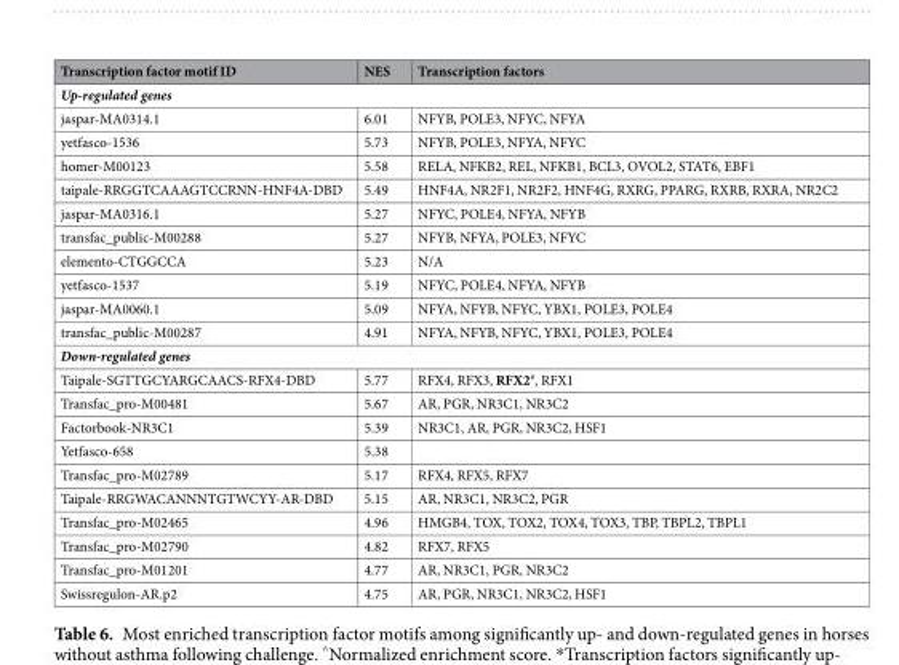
<table><thead><tr><td>Transcription factor motif ID</td><td>NES</td><td>Transcription factors</td></tr></thead><tbody><tr><td colspan="3">Up-regulated genes</td></tr><tr><td>jaspar-MA0314.1</td><td>6.01</td><td>NFYB, POLE3, NFYC, NFYA</td></tr><tr><td>yetfasco-1536</td><td>5.73</td><td>NFYB, POLE3, NFYA, NFYC</td></tr><tr><td>homer-M00123</td><td>5.58</td><td>RELA, NFKB2, REL, NFKB1, BCL3, OVOL2, STAT6, EBF1</td></tr><tr><td>taipale-RRGGTCAAAGTCCRNN-HNF4A-DBD</td><td>5.49</td><td>HNF4A, NR2F1, NR2F2, HNF4G, RXRG, PPARG, RXRB, RXRA, NR2C2</td></tr><tr><td>jaspar-MA0316.1</td><td>5.27</td><td>NFYC, POLE4, NFYA, NFYB</td></tr><tr><td>transfac_public-M00288</td><td>5.27</td><td>NFYB, NFYA, POLE3, NFYC</td></tr><tr><td>elemento-CTGGCCA</td><td>5.23</td><td>N/A</td></tr><tr><td>yetfasco-1537</td><td>5.19</td><td>NFYC, POLE4, NFYA, NFYB</td></tr><tr><td>jaspar-MA0060.1</td><td>5.09</td><td>NFYA, NFYB, NFYC, YBX1, POLE3, POLE4</td></tr><tr><td>transfac_public-M00287</td><td>4.91</td><td>NFYA, NFYB, NFYC, YBX1, POLE3, POLE4</td></tr><tr><td colspan="3">Down-regulated genes</td></tr><tr><td>Taipale-SGTTGCYARGCAACS-RFX4-DBD</td><td>5.77</td><td>RFX4, RFX3, RFX2<sup>#</sup>, RFX1</td></tr><tr><td>Transfac_pro-M00481</td><td>5.67</td><td>AR, PGR, NR3C1, NR3C2</td></tr><tr><td>Factorbook-NR3C1</td><td>5.39</td><td>NR3C1, AR, PGR, NR3C2, HSF1</td></tr><tr><td>Yetfasco-658</td><td>5.38</td><td></td></tr><tr><td>Transfac_pro-M02789</td><td>5.17</td><td>RFX4, RFX5, RFX7</td></tr><tr><td>Taipale-RRGWACANNNTGTWCYY-AR-DBD</td><td>5.15</td><td>AR, NR3C1, NR3C2, PGR</td></tr><tr><td>Transfac_pro-M02465</td><td>4.96</td><td>HMGB4, TOX, TOX2, TOX4, TOX3, TBP, TBPL2, TBPL1</td></tr><tr><td>Transfac_pro-M02790</td><td>4.82</td><td>RFX7, RFX5</td></tr><tr><td>Transfac_pro-M01201</td><td>4.77</td><td>AR, NR3C1, PGR, NR3C2</td></tr><tr><td>Swissregulon-AR.p2</td><td>4.75</td><td>AR, PGR, NR3C1, NR3C2, HSF1</td></tr></tbody></table>